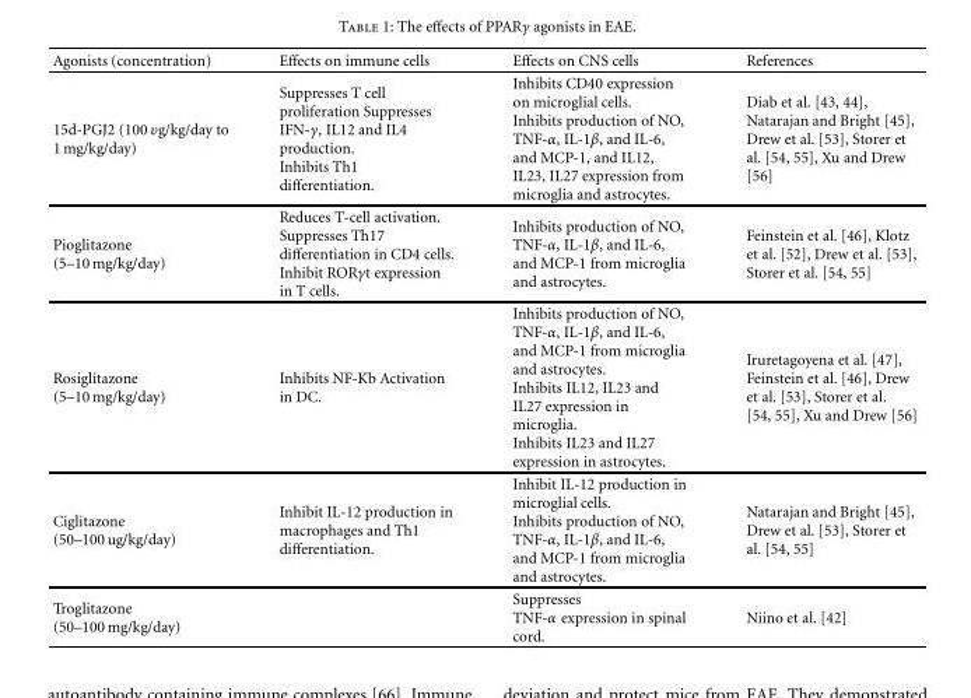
<table><thead><tr><td>Agonists (concentration)</td><td>Effects on immune cells</td><td>Effects on CNS cells</td><td>References</td></tr></thead><tbody><tr><td>15d-PGJ2 (100 υg/kg/day to 1 mg/kg/day)</td><td>Suppresses T cell proliferation Suppresses IFN-γ, IL12 and IL4 production. Inhibits Th1 differentiation.</td><td>Inhibits CD40 expression on microglial cells. Inhibits production of NO, TNF-α, IL-1β, and IL-6, and MCP-1, and IL12, IL23, IL27 expression from microglia and astrocytes.</td><td>Diab et al. [43, 44], Natarajan and Bright [45], Drew et al. [53], Storer et al. [54, 55], Xu and Drew [56]</td></tr><tr><td>Pioglitazone (5–10 mg/kg/day)</td><td>Reduces T-cell activation. Suppresses Th17 differentiation in CD4 cells. Inhibit RORγt expression in T cells.</td><td>Inhibits production of NO, TNF-α, IL-1β, and IL-6, and MCP-1 from microglia and astrocytes.</td><td>Feinstein et al. [46], Klotz et al. [52], Drew et al. [53], Storer et al. [54, 55]</td></tr><tr><td>Rosiglitazone (5–10 mg/kg/day)</td><td>Inhibits NF-Kb Activation in DC.</td><td>Inhibits production of NO, TNF-α, IL-1β, and IL-6, and MCP-1 from microglia and astrocytes. Inhibits IL12, IL23 and IL27 expression in microglia. Inhibits IL23 and IL27 expression in astrocytes.</td><td>Iruretagoyena et al. [47], Feinstein et al. [46], Drew et al. [53], Storer et al. [54, 55], Xu and Drew [56]</td></tr><tr><td>Ciglitazone (50–100ug/kg/day)</td><td>Inhibit IL-12 production in macrophages and Th1 differentiation.</td><td>Inhibit IL-12 production in microglial cells. Inhibits production of NO, TNF-α, IL-1β, and IL-6, and MCP-1 from microglia and astrocytes.</td><td>Natarajan and Bright [45], Drew et al. [53], Storer et al. [54, 55]</td></tr><tr><td>Troglitazone (50–100mg/kg/day)</td><td></td><td>Suppresses TNF-α expression in spinal cord.</td><td>Niino et al. [42]</td></tr></tbody></table>